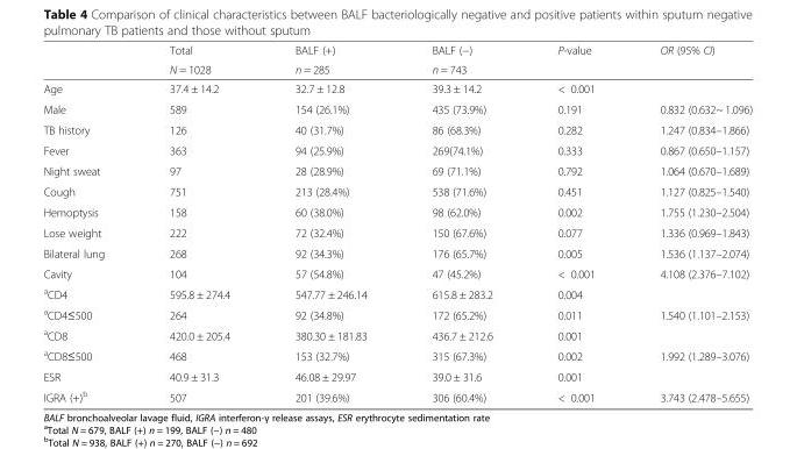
<table><thead><tr><td rowspan="2"></td><td rowspan="2">Total N = 1028</td><td rowspan="2">BALF (+) n = 285</td><td rowspan="2">BALF (−) n = 743</td><td rowspan="2">P-value</td><td rowspan="2">OR (95% CI)</td></tr><tr></tr></thead><tbody><tr><td>Age</td><td>37.4 ± 14.2</td><td>32.7 ± 12.8</td><td>39.3 ± 14.2</td><td>&lt; 0.001</td><td></td></tr><tr><td>Male</td><td>589</td><td>154 (26.1%)</td><td>435 (73.9%)</td><td>0.191</td><td>0.832 (0.632~ 1.096)</td></tr><tr><td>TB history</td><td>126</td><td>40 (31.7%)</td><td>86 (68.3%)</td><td>0.282</td><td>1.247 (0.834–1.866)</td></tr><tr><td>Fever</td><td>363</td><td>94 (25.9%)</td><td>269(74.1%)</td><td>0.333</td><td>0.867 (0.650–1.157)</td></tr><tr><td>Night sweat</td><td>97</td><td>28 (28.9%)</td><td>69 (71.1%)</td><td>0.792</td><td>1.064 (0.670–1.689)</td></tr><tr><td>Cough</td><td>751</td><td>213 (28.4%)</td><td>538 (71.6%)</td><td>0.451</td><td>1.127 (0.825–1.540)</td></tr><tr><td>Hemoptysis</td><td>158</td><td>60 (38.0%)</td><td>98 (62.0%)</td><td>0.002</td><td>1.755 (1.230–2.504)</td></tr><tr><td>Lose weight</td><td>222</td><td>72 (32.4%)</td><td>150 (67.6%)</td><td>0.077</td><td>1.336 (0.969–1.843)</td></tr><tr><td>Bilateral lung</td><td>268</td><td>92 (34.3%)</td><td>176 (65.7%)</td><td>0.005</td><td>1.536 (1.137–2.074)</td></tr><tr><td>Cavity</td><td>104</td><td>57 (54.8%)</td><td>47 (45.2%)</td><td>&lt; 0.001</td><td>4.108 (2.376–7.102)</td></tr><tr><td><sup>a</sup>CD4</td><td>595.8 ± 274.4</td><td>547.77 ± 246.14</td><td>615.8 ± 283.2</td><td>0.004</td><td></td></tr><tr><td><sup>a</sup>CD4≤500</td><td>264</td><td>92 (34.8%)</td><td>172 (65.2%)</td><td>0.011</td><td>1.540 (1.101–2.153)</td></tr><tr><td><sup>a</sup>CD8</td><td>420.0 ± 205.4</td><td>380.30 ± 181.83</td><td>436.7 ± 212.6</td><td>0.001</td><td></td></tr><tr><td><sup>a</sup>CD8≤500</td><td>468</td><td>153 (32.7%)</td><td>315 (67.3%)</td><td>0.002</td><td>1.992 (1.289–3.076)</td></tr><tr><td>ESR</td><td>40.9 ± 31.3</td><td>46.08 ± 29.97</td><td>39.0 ± 31.6</td><td>0.001</td><td></td></tr><tr><td>IGRA (+)<sup>b</sup></td><td>507</td><td>201 (39.6%)</td><td>306 (60.4%)</td><td>&lt; 0.001</td><td>3.743 (2.478–5.655)</td></tr></tbody></table>